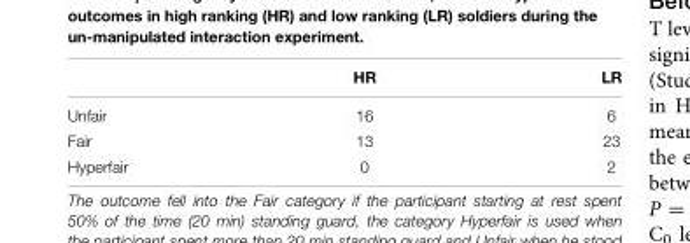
<table><thead><tr><td></td><td>HR</td><td>LR</td></tr></thead><tbody><tr><td>Unfair</td><td>16</td><td>6</td></tr><tr><td>Fair</td><td>13</td><td>23</td></tr><tr><td>Hyperfair</td><td>0</td><td>2</td></tr></tbody></table>